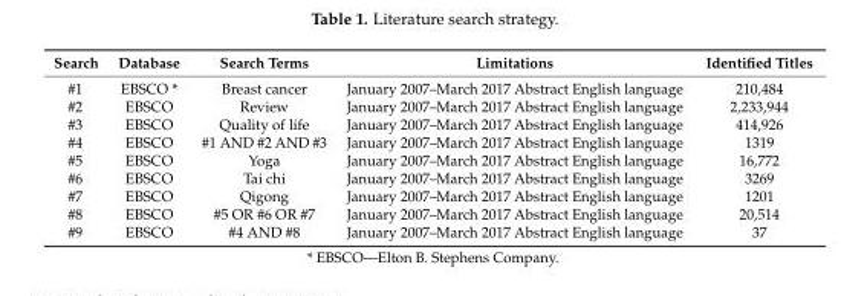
<table><thead><tr><td>Search</td><td>Database</td><td>Search Terms</td><td>Limitations</td><td>Identified Titles</td></tr></thead><tbody><tr><td>#1</td><td>EBSCO *</td><td>Breast cancer</td><td>January 2007–March 2017 Abstract English language</td><td>210,484</td></tr><tr><td>#2</td><td>EBSCO</td><td>Review</td><td>January 2007–March 2017 Abstract English language</td><td>2,233,944</td></tr><tr><td>#3</td><td>EBSCO</td><td>Quality of life</td><td>January 2007–March 2017 Abstract English language</td><td>414,926</td></tr><tr><td>#4</td><td>EBSCO</td><td>#1 AND #2 AND #3</td><td>January 2007–March 2017 Abstract English language</td><td>1319</td></tr><tr><td>#5</td><td>EBSCO</td><td>Yoga</td><td>January 2007–March 2017 Abstract English language</td><td>16,772</td></tr><tr><td>#6</td><td>EBSCO</td><td>Tai chi</td><td>January 2007–March 2017 Abstract English language</td><td>3269</td></tr><tr><td>#7</td><td>EBSCO</td><td>Qigong</td><td>January 2007–March 2017 Abstract English language</td><td>1201</td></tr><tr><td>#8</td><td>EBSCO</td><td>#5 OR #6 OR #7</td><td>January 2007–March 2017 Abstract English language</td><td>20,514</td></tr><tr><td>#9</td><td>EBSCO</td><td>#4 AND #8</td><td>January 2007–March 2017 Abstract English language</td><td>37</td></tr></tbody></table>